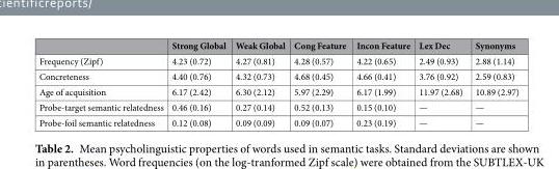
<table><thead><tr><td></td><td>Strong Global</td><td>Weak Global</td><td>Cong Feature</td><td>Incon Feature</td><td>Lex Dec</td><td>Synonyms</td></tr></thead><tbody><tr><td>Frequency (Zipf)</td><td>4.23 (0.72)</td><td>4.27 (0.81)</td><td>4.28 (0.57)</td><td>4.22 (0.65)</td><td>2.49 (0.93)</td><td>2.88 (1.14)</td></tr><tr><td>Concreteness</td><td>4.40 (0.76)</td><td>4.32 (0.73)</td><td>4.68 (0.45)</td><td>4.66 (0.41)</td><td>3.76 (0.92)</td><td>2.59 (0.83)</td></tr><tr><td>Age of acquisition</td><td>6.17 (2.42)</td><td>6.30 (2.12)</td><td>5.97 (2.29)</td><td>6.17 (1.99)</td><td>11.97 (2.68)</td><td>10.89 (2.97)</td></tr><tr><td>Probe-target semantic relatedness</td><td>0.46 (0.16)</td><td>0.27 (0.14)</td><td>0.52 (0.13)</td><td>0.15 (0.10)</td><td>—</td><td>—</td></tr><tr><td>Probe-foil semantic relatedness</td><td>0.12 (0.08)</td><td>0.09 (0.09)</td><td>0.09 (0.07)</td><td>0.23 (0.19)</td><td>—</td><td>—</td></tr></tbody></table>